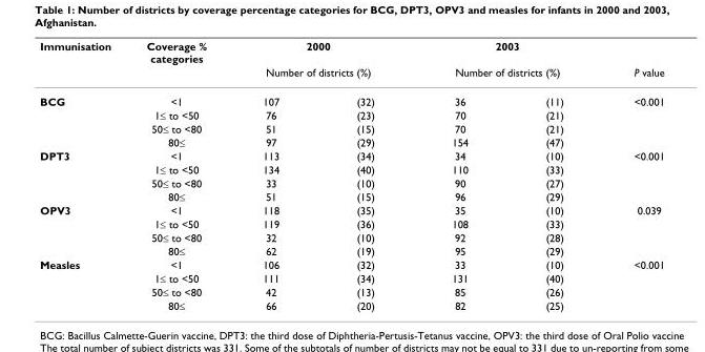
<table><thead><tr><td rowspan="3">Immunisation BCG</td><td rowspan="3">Coverage % categories &lt;1</td><td rowspan="2" colspan="2">2000 Number of districts (%)</td><td rowspan="2" colspan="2">2003 Number of districts (%)</td><td rowspan="3">P value &lt;0.001</td></tr><tr></tr><tr><td>107</td><td>(32)</td><td>36</td><td>(11)</td></tr></thead><tbody><tr><td></td><td>1≤ to &lt;50</td><td>76</td><td>(23)</td><td>70</td><td>(21)</td><td></td></tr><tr><td></td><td>50≤ to &lt;80</td><td>51</td><td>(15)</td><td>70</td><td>(21)</td><td></td></tr><tr><td></td><td>80≤</td><td>97</td><td>(29)</td><td>154</td><td>(47)</td><td></td></tr><tr><td rowspan="4">DPT3</td><td>&lt;1</td><td>113</td><td>(34)</td><td>34</td><td>(10)</td><td>&lt;0.001</td></tr><tr><td>1≤ to &lt;50</td><td>134</td><td>(40)</td><td>110</td><td>(33)</td><td></td></tr><tr><td>50≤ to &lt;80</td><td>33</td><td>(10)</td><td>90</td><td>(27)</td><td></td></tr><tr><td>80≤</td><td>51</td><td>(15)</td><td>96</td><td>(29)</td><td></td></tr><tr><td rowspan="4">OPV3</td><td>&lt;1</td><td>118</td><td>(35)</td><td>35</td><td>(10)</td><td>0.039</td></tr><tr><td>1≤ to &lt;50</td><td>119</td><td>(36)</td><td>108</td><td>(33)</td><td></td></tr><tr><td>50≤ to &lt;80</td><td>32</td><td>(10)</td><td>92</td><td>(28)</td><td></td></tr><tr><td>80≤</td><td>62</td><td>(19)</td><td>95</td><td>(29)</td><td></td></tr><tr><td rowspan="4">Measles</td><td>&lt;1</td><td>106</td><td>(32)</td><td>33</td><td>(10)</td><td>&lt;0.001</td></tr><tr><td>1≤ to &lt;50</td><td>111</td><td>(34)</td><td>131</td><td>(40)</td><td></td></tr><tr><td>50≤ to &lt;80</td><td>42</td><td>(13)</td><td>85</td><td>(26)</td><td></td></tr><tr><td>80≤</td><td>66</td><td>(20)</td><td>82</td><td>(25)</td><td></td></tr></tbody></table>